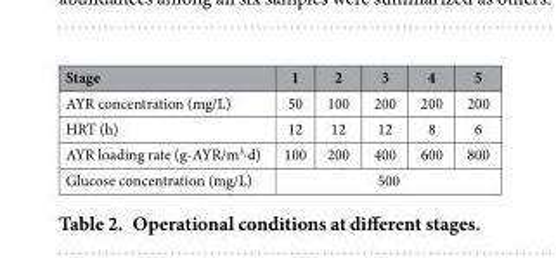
<table><thead><tr><td>Stage</td><td>1</td><td>2</td><td>3</td><td>4</td><td>5</td></tr></thead><tbody><tr><td>AYR concentration (mg/L)</td><td>50</td><td>100</td><td>200</td><td>200</td><td>200</td></tr><tr><td>HRT (h)</td><td>12</td><td>12</td><td>12</td><td>8</td><td>6</td></tr><tr><td>AYR loading rate (g-AYR/m<sup>3</sup>·d)</td><td>100</td><td>200</td><td>400</td><td>600</td><td>800</td></tr><tr><td>Glucose concentration (mg/L)</td><td colspan="5">500</td></tr></tbody></table>